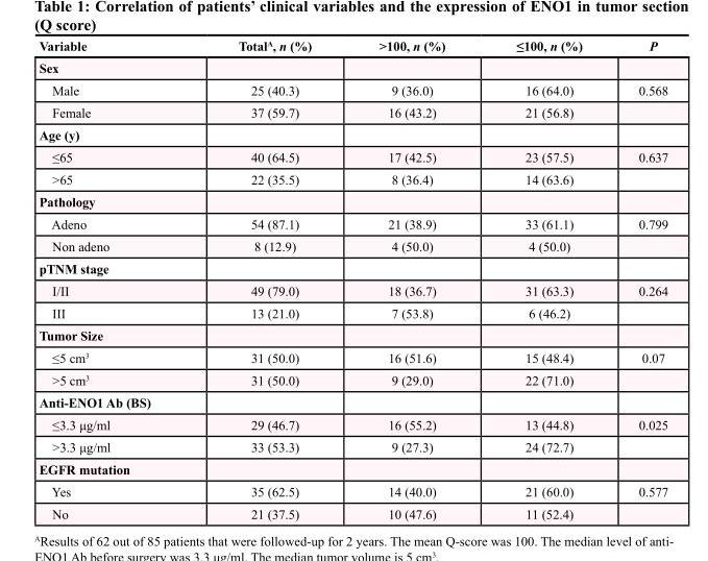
<table><thead><tr><td>Variable</td><td>Total<sup>A</sup>, n (%)</td><td>&gt;100, n (%)</td><td>≤100, n (%)</td><td>P</td></tr></thead><tbody><tr><td colspan="5">Sex</td></tr><tr><td>Male</td><td>25 (40.3)</td><td>9 (36.0)</td><td>16 (64.0)</td><td>0.568</td></tr><tr><td>Female</td><td>37 (59.7)</td><td>16 (43.2)</td><td>21 (56.8)</td><td></td></tr><tr><td colspan="5">Age (y)</td></tr><tr><td>≤65</td><td>40 (64.5)</td><td>17 (42.5)</td><td>23 (57.5)</td><td>0.637</td></tr><tr><td>&gt;65</td><td>22 (35.5)</td><td>8 (36.4)</td><td>14 (63.6)</td><td></td></tr><tr><td colspan="5">Pathology</td></tr><tr><td>Adeno</td><td>54 (87.1)</td><td>21 (38.9)</td><td>33 (61.1)</td><td>0.799</td></tr><tr><td>Non adeno</td><td>8 (12.9)</td><td>4 (50.0)</td><td>4 (50.0)</td><td></td></tr><tr><td colspan="5">pTNM stage</td></tr><tr><td>I/II</td><td>49 (79.0)</td><td>18 (36.7)</td><td>31 (63.3)</td><td>0.264</td></tr><tr><td>III</td><td>13 (21.0)</td><td>7 (53.8)</td><td>6 (46.2)</td><td></td></tr><tr><td colspan="5">Tumor Size</td></tr><tr><td>≤5 cm<sup>3</sup></td><td>31 (50.0)</td><td>16 (51.6)</td><td>15 (48.4)</td><td>0.07</td></tr><tr><td>&gt;5 cm<sup>3</sup></td><td>31 (50.0)</td><td>9 (29.0)</td><td>22 (71.0)</td><td></td></tr><tr><td colspan="5">Anti-ENO1 Ab (BS)</td></tr><tr><td>≤3.3 μg/ml</td><td>29 (46.7)</td><td>16 (55.2)</td><td>13 (44.8)</td><td>0.025</td></tr><tr><td>&gt;3.3 μg/ml</td><td>33 (53.3)</td><td>9 (27.3)</td><td>24 (72.7)</td><td></td></tr><tr><td colspan="5">EGFR mutation</td></tr><tr><td>Yes</td><td>35 (62.5)</td><td>14 (40.0)</td><td>21 (60.0)</td><td>0.577</td></tr><tr><td>No</td><td>21 (37.5)</td><td>10 (47.6)</td><td>11 (52.4)</td><td></td></tr></tbody></table>